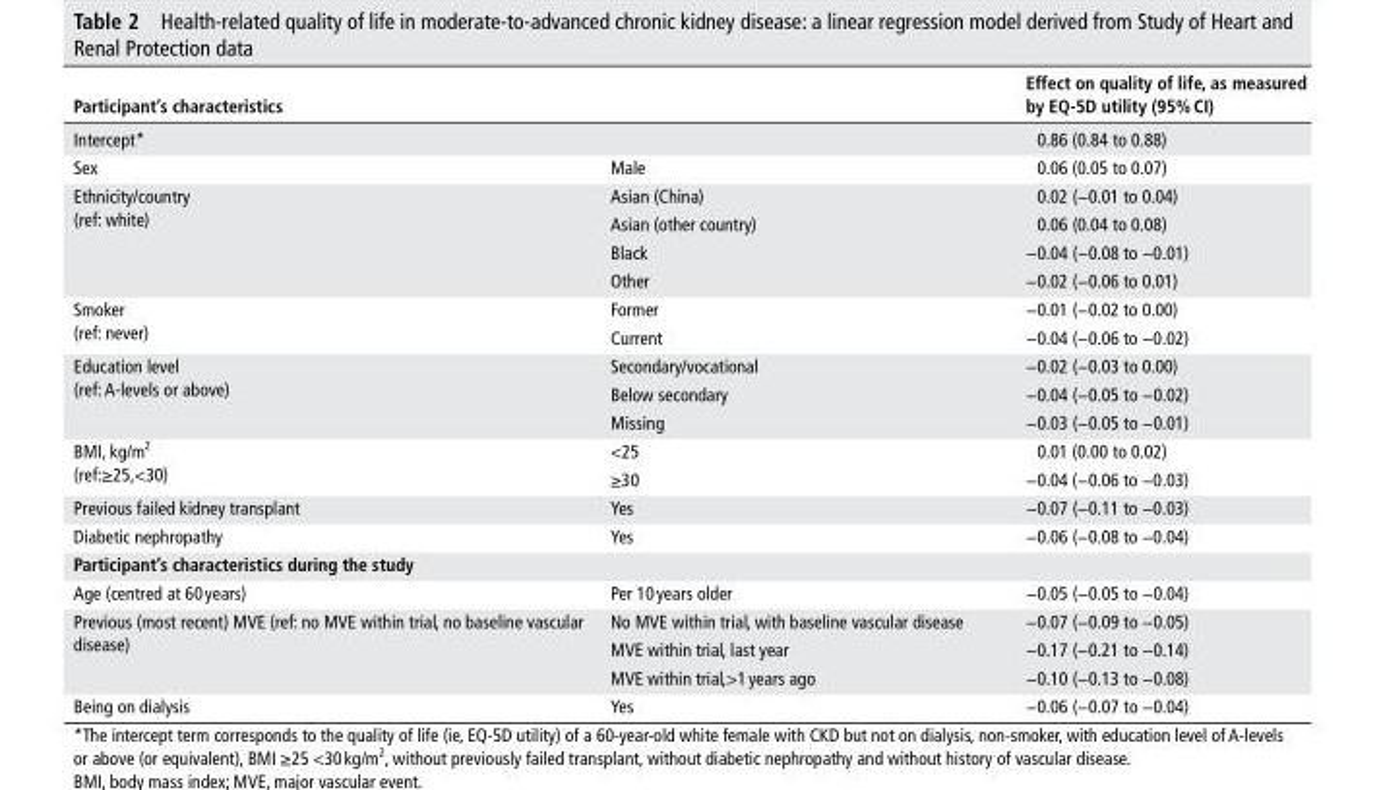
<table><thead><tr><td colspan="2">Participant’s characteristics</td><td rowspan="2">effect on quality of life, as measured by eQ-5d utility (95% cI) 0.86 (0.84 to 0.88)</td></tr><tr><td>Intercept*</td><td></td></tr></thead><tbody><tr><td>Sex</td><td>Male</td><td>0.06 (0.05 to 0.07)</td></tr><tr><td rowspan="4">Ethnicity/country (ref: white)</td><td>Asian (China)</td><td>0.02 (−0.01 to 0.04)</td></tr><tr><td>Asian (other country)</td><td>0.06 (0.04 to 0.08)</td></tr><tr><td>Black</td><td>−0.04 (−0.08 to −0.01)</td></tr><tr><td>Other</td><td>−0.02 (−0.06 to 0.01)</td></tr><tr><td rowspan="2">Smoker (ref: never)</td><td>Former</td><td>−0.01 (−0.02 to 0.00)</td></tr><tr><td>Current</td><td>−0.04 (−0.06 to −0.02)</td></tr><tr><td rowspan="3">Education level (ref: A-levels or above)</td><td>Secondary/vocational</td><td>−0.02 (−0.03 to 0.00)</td></tr><tr><td>Below secondary</td><td>−0.04 (−0.05 to −0.02)</td></tr><tr><td>Missing</td><td>−0.03 (−0.05 to −0.01)</td></tr><tr><td rowspan="2">BMI, kg/m<sup>2</sup> (ref:≥25,&lt;30)</td><td>&lt;25</td><td>0.01 (0.00 to 0.02)</td></tr><tr><td>≥30</td><td>−0.04 (−0.06 to −0.03)</td></tr><tr><td>Previous failed kidney transplant</td><td>Yes</td><td>−0.07 (−0.11 to −0.03)</td></tr><tr><td>Diabetic nephropathy</td><td>Yes</td><td>−0.06 (−0.08 to −0.04)</td></tr><tr><td colspan="3">Participant’s characteristics during the study</td></tr><tr><td>Age (centred at 60 years)</td><td>Per 10 years older</td><td>−0.05 (−0.05 to −0.04)</td></tr><tr><td rowspan="3">Previous (most recent) MVE (ref: no MVE within trial, no baseline vascular disease)</td><td>No MVE within trial, with baseline vascular disease</td><td>−0.07 (−0.09 to −0.05)</td></tr><tr><td>MVE within trial, last year</td><td>−0.17 (−0.21 to −0.14)</td></tr><tr><td>MVE within trial,&gt;1 years ago</td><td>−0.10 (−0.13 to −0.08)</td></tr><tr><td>Being on dialysis</td><td>Yes</td><td>−0.06 (−0.07 to −0.04)</td></tr></tbody></table>